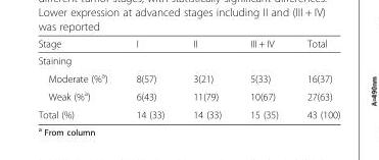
<table><thead><tr><td>Stage</td><td>I</td><td>II</td><td>III + IV</td><td>Total</td></tr></thead><tbody><tr><td colspan="5">Staining</td></tr><tr><td>Moderate (%<sup>a</sup>)</td><td>8(57)</td><td>3(21)</td><td>5(33)</td><td>16(37)</td></tr><tr><td>Weak (%<sup>a</sup>)</td><td>6(43)</td><td>11(79)</td><td>10(67)</td><td>27(63)</td></tr><tr><td>Total (%)</td><td>14 (33)</td><td>14 (33)</td><td>15 (35)</td><td>43 (100)</td></tr></tbody></table>